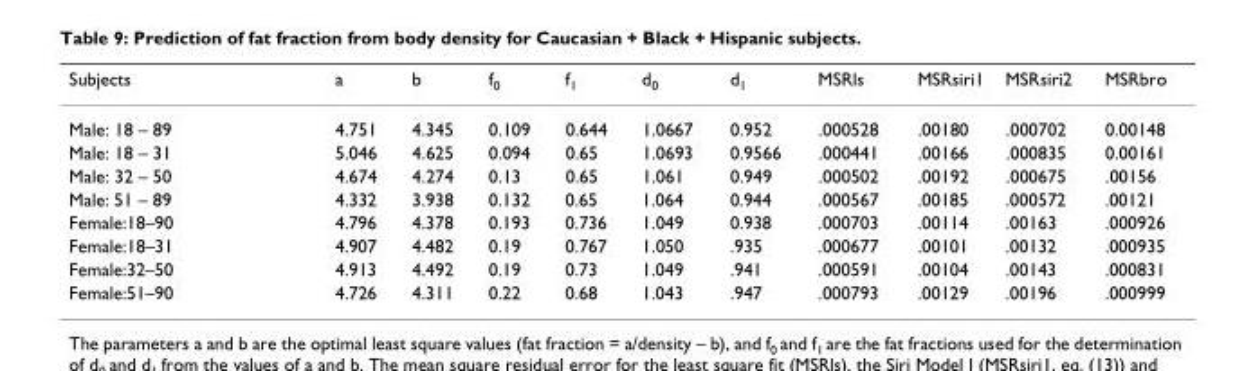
<table><thead><tr><td>Subjects</td><td>a</td><td>b</td><td>f<sub>0</sub></td><td>f<sub>1</sub></td><td>d<sub>0</sub></td><td>d<sub>1</sub></td><td>MSRls</td><td>MSRsiri1</td><td>MSRsiri2</td><td>MSRbro</td></tr></thead><tbody><tr><td>Male: 18 – 89</td><td>4.751</td><td>4.345</td><td>0.109</td><td>0.644</td><td>1.0667</td><td>0.952</td><td>.000528</td><td>.00180</td><td>.000702</td><td>0.00148</td></tr><tr><td>Male: 18 – 31</td><td>5.046</td><td>4.625</td><td>0.094</td><td>0.65</td><td>1.0693</td><td>0.9566</td><td>.000441</td><td>.00166</td><td>.000835</td><td>0.00161</td></tr><tr><td>Male: 32 – 50</td><td>4.674</td><td>4.274</td><td>0.13</td><td>0.65</td><td>1.061</td><td>0.949</td><td>.000502</td><td>.00192</td><td>.000675</td><td>.00156</td></tr><tr><td>Male: 51 – 89</td><td>4.332</td><td>3.938</td><td>0.132</td><td>0.65</td><td>1.064</td><td>0.944</td><td>.000567</td><td>.00185</td><td>.000572</td><td>.00121</td></tr><tr><td>Female:18–90</td><td>4.796</td><td>4.378</td><td>0.193</td><td>0.736</td><td>1.049</td><td>0.938</td><td>.000703</td><td>.00114</td><td>.00163</td><td>.000926</td></tr><tr><td>Female:18–31</td><td>4.907</td><td>4.482</td><td>0.19</td><td>0.767</td><td>1.050</td><td>.935</td><td>.000677</td><td>.00101</td><td>.00132</td><td>.000935</td></tr><tr><td>Female:32–50</td><td>4.913</td><td>4.492</td><td>0.19</td><td>0.73</td><td>1.049</td><td>.941</td><td>.000591</td><td>.00104</td><td>.00143</td><td>.000831</td></tr><tr><td>Female:51–90</td><td>4.726</td><td>4.311</td><td>0.22</td><td>0.68</td><td>1.043</td><td>.947</td><td>.000793</td><td>.00129</td><td>.00196</td><td>.000999</td></tr></tbody></table>